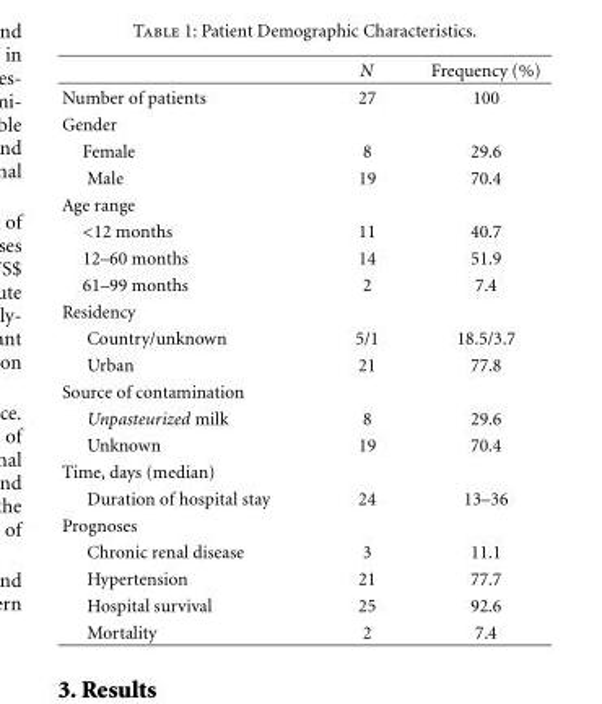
<table><thead><tr><td></td><td>N</td><td>Frequency (%)</td></tr></thead><tbody><tr><td>Number of patients</td><td>27</td><td>100</td></tr><tr><td colspan="3">Gender</td></tr><tr><td>Female</td><td>8</td><td>29.6</td></tr><tr><td>Male</td><td>19</td><td>70.4</td></tr><tr><td colspan="3">Age range</td></tr><tr><td>&lt;12 months</td><td>11</td><td>40.7</td></tr><tr><td>12–60 months</td><td>14</td><td>51.9</td></tr><tr><td>61–99 months</td><td>2</td><td>7.4</td></tr><tr><td colspan="3">Residency</td></tr><tr><td>Country/unknown</td><td>5/1</td><td>18.5/3.7</td></tr><tr><td>Urban</td><td>21</td><td>77.8</td></tr><tr><td colspan="3">Source of contamination</td></tr><tr><td>Unpasteurized milk</td><td>8</td><td>29.6</td></tr><tr><td>Unknown</td><td>19</td><td>70.4</td></tr><tr><td colspan="3">Time, days (median)</td></tr><tr><td>Duration of hospital stay</td><td>24</td><td>13–36</td></tr><tr><td colspan="3">Prognoses</td></tr><tr><td>Chronic renal disease</td><td>3</td><td>11.1</td></tr><tr><td>Hypertension</td><td>21</td><td>77.7</td></tr><tr><td>Hospital survival</td><td>25</td><td>92.6</td></tr><tr><td>Mortality</td><td>2</td><td>7.4</td></tr></tbody></table>